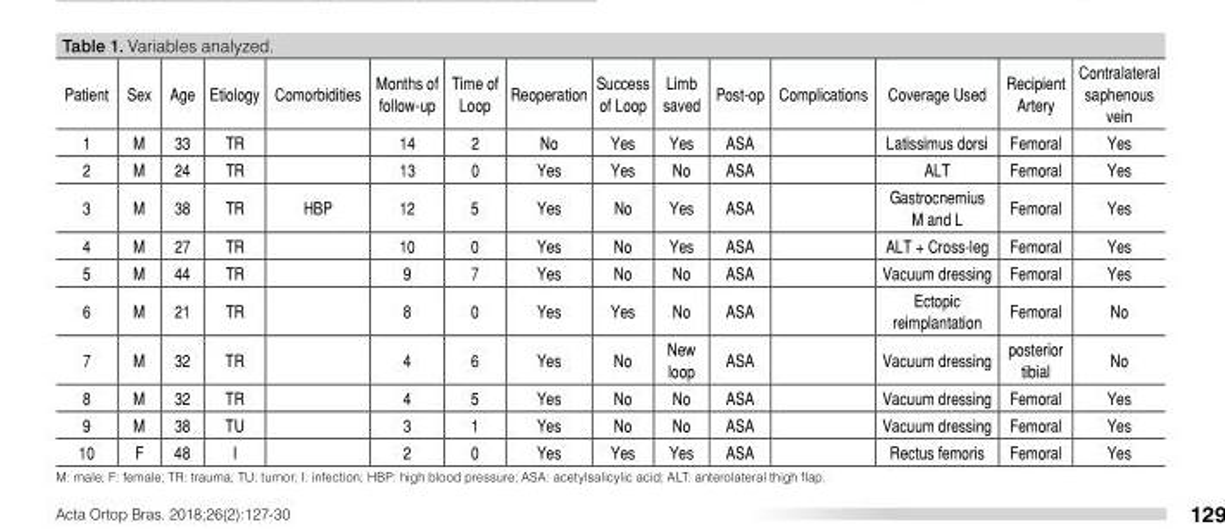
<table><tbody><tr><td>Patient</td><td>Sex</td><td>Age</td><td>Etiology</td><td>Comorbidities</td><td>Months of follow-up</td><td>Time of Loop</td><td>Reoperation</td><td>Success of Loop</td><td>Limb saved</td><td>Post-op</td><td>Complications</td><td>Coverage Used</td><td>Recipient Artery</td><td>Contralateral saphenous vein</td></tr><tr><td>1</td><td>M</td><td>33</td><td>TR</td><td></td><td>14</td><td>2</td><td>No</td><td>Yes</td><td>Yes</td><td>ASA</td><td></td><td>Latissimus dorsi</td><td>Femoral</td><td>Yes</td></tr><tr><td>2</td><td>M</td><td>24</td><td>TR</td><td></td><td>13</td><td>0</td><td>Yes</td><td>Yes</td><td>No</td><td>ASA</td><td></td><td>ALT</td><td>Femoral</td><td>Yes</td></tr><tr><td>3</td><td>M</td><td>38</td><td>TR</td><td>HBP</td><td>12</td><td>5</td><td>Yes</td><td>No</td><td>Yes</td><td>ASA</td><td></td><td>Gastrocnemius M and L</td><td>Femoral</td><td>Yes</td></tr><tr><td>4</td><td>M</td><td>27</td><td>TR</td><td></td><td>10</td><td>0</td><td>Yes</td><td>No</td><td>Yes</td><td>ASA</td><td></td><td>ALT + Cross-leg</td><td>Femoral</td><td>Yes</td></tr><tr><td>5</td><td>M</td><td>44</td><td>TR</td><td></td><td>9</td><td>7</td><td>Yes</td><td>No</td><td>No</td><td>ASA</td><td></td><td>Vacuum dressing</td><td>Femoral</td><td>Yes</td></tr><tr><td>6</td><td>M</td><td>21</td><td>TR</td><td></td><td>8</td><td>0</td><td>Yes</td><td>Yes</td><td>No</td><td>ASA</td><td></td><td>Ectopic reimplantation</td><td>Femoral</td><td>No</td></tr><tr><td>7</td><td>M</td><td>32</td><td>TR</td><td></td><td>4</td><td>6</td><td>Yes</td><td>No</td><td>New loop</td><td>ASA</td><td></td><td>Vacuum dressing</td><td>posterior tibial</td><td>No</td></tr><tr><td>8</td><td>M</td><td>32</td><td>TR</td><td></td><td>4</td><td>5</td><td>Yes</td><td>No</td><td>No</td><td>ASA</td><td></td><td>Vacuum dressing</td><td>Femoral</td><td>Yes</td></tr><tr><td>9</td><td>M</td><td>38</td><td>TU</td><td></td><td>3</td><td>1</td><td>Yes</td><td>No</td><td>No</td><td>ASA</td><td></td><td>Vacuum dressing</td><td>Femoral</td><td>Yes</td></tr><tr><td>10</td><td>F</td><td>48</td><td>I</td><td></td><td>2</td><td>0</td><td>Yes</td><td>Yes</td><td>Yes</td><td>ASA</td><td></td><td>Rectus femoris</td><td>Femoral</td><td>Yes</td></tr></tbody></table>